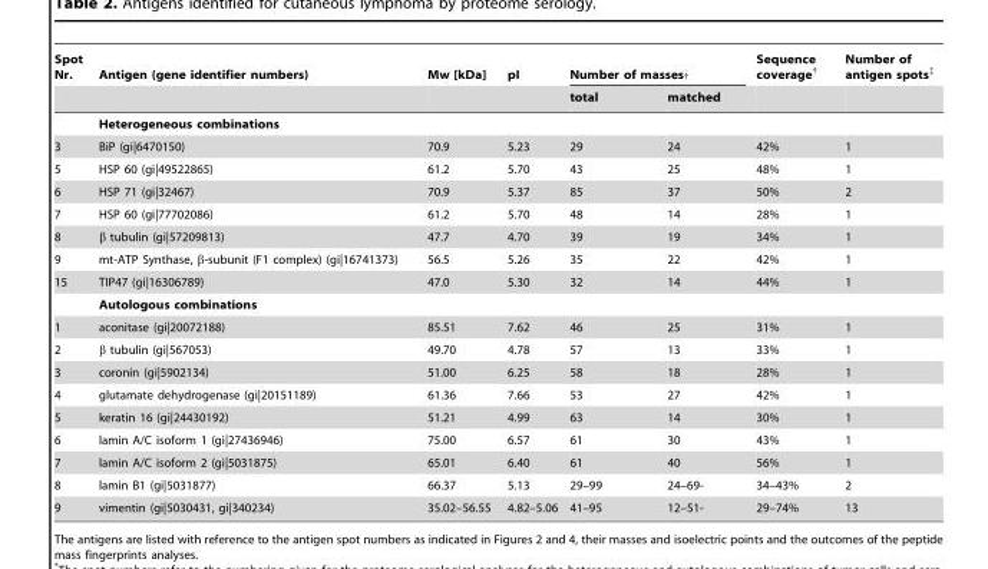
<table><thead><tr><td rowspan="2">Spot Nr.</td><td rowspan="2">Antigen (gene identifier numbers)</td><td rowspan="2">Mw [kDa]</td><td rowspan="2">pI</td><td colspan="2">Number of masses†</td><td rowspan="2">Sequence coverage†</td><td rowspan="2">Number of antigen spots‡</td></tr><tr><td>total</td><td>matched</td></tr></thead><tbody><tr><td></td><td>Heterogeneous combinations</td><td></td><td></td><td></td><td></td><td></td><td></td></tr><tr><td>3</td><td>BiP (gi|6470150)</td><td>70.9</td><td>5.23</td><td>29</td><td>24</td><td>42%</td><td>1</td></tr><tr><td>5</td><td>HSP 60 (gi|49522865)</td><td>61.2</td><td>5.70</td><td>43</td><td>25</td><td>48%</td><td>1</td></tr><tr><td>6</td><td>HSP 71 (gi|32467)</td><td>70.9</td><td>5.37</td><td>85</td><td>37</td><td>50%</td><td>2</td></tr><tr><td>7</td><td>HSP 60 (gi|77702086)</td><td>61.2</td><td>5.70</td><td>48</td><td>14</td><td>28%</td><td>1</td></tr><tr><td>8</td><td>β tubulin (gi|57209813)</td><td>47.7</td><td>4.70</td><td>39</td><td>19</td><td>34%</td><td>1</td></tr><tr><td>9</td><td>mt-ATP Synthase, β-subunit (F1 complex) (gi|16741373)</td><td>56.5</td><td>5.26</td><td>35</td><td>22</td><td>42%</td><td>1</td></tr><tr><td rowspan="2">15</td><td>TIP47 (gi|16306789)</td><td>47.0</td><td>5.30</td><td>32</td><td>14</td><td>44%</td><td>1</td></tr><tr><td>Autologous combinations</td><td></td><td></td><td></td><td></td><td></td><td></td></tr><tr><td>1</td><td>aconitase (gi|20072188)</td><td>85.51</td><td>7.62</td><td>46</td><td>25</td><td>31%</td><td>1</td></tr><tr><td>2</td><td>β tubulin (gi|567053)</td><td>49.70</td><td>4.78</td><td>57</td><td>13</td><td>33%</td><td>1</td></tr><tr><td>3</td><td>coronin (gi|5902134)</td><td>51.00</td><td>6.25</td><td>58</td><td>18</td><td>28%</td><td>1</td></tr><tr><td>4</td><td>glutamate dehydrogenase (gi|20151189)</td><td>61.36</td><td>7.66</td><td>53</td><td>27</td><td>42%</td><td>1</td></tr><tr><td>5</td><td>keratin 16 (gi|24430192)</td><td>51.21</td><td>4.99</td><td>63</td><td>14</td><td>30%</td><td>1</td></tr><tr><td>6</td><td>lamin A/C isoform 1 (gi|27436946)</td><td>75.00</td><td>6.57</td><td>61</td><td>30</td><td>43%</td><td>1</td></tr><tr><td>7</td><td>lamin A/C isoform 2 (gi|5031875)</td><td>65.01</td><td>6.40</td><td>61</td><td>40</td><td>56%</td><td>1</td></tr><tr><td>8</td><td>lamin B1 (gi|5031877)</td><td>66.37</td><td>5.13</td><td>29–99</td><td>24–69-</td><td>34–43%</td><td>2</td></tr><tr><td>9</td><td>vimentin (gi|5030431, gi|340234)</td><td>35.02–56.55</td><td>4.82–5.06</td><td>41–95</td><td>12–51-</td><td>29–74%</td><td>13</td></tr></tbody></table>